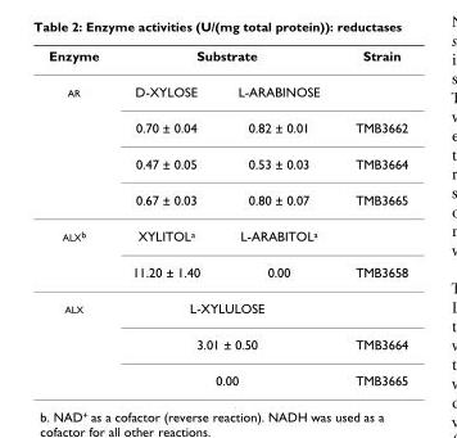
<table><thead><tr><td rowspan="2">Enzyme AR</td><td colspan="2">Substrate</td><td rowspan="2">Strain</td></tr><tr><td>D-XYLOSE</td><td>L-ARABINOSE</td></tr></thead><tbody><tr><td></td><td>0.70 ± 0.04</td><td>0.82 ± 0.01</td><td>TMB3662</td></tr><tr><td></td><td>0.47 ± 0.05</td><td>0.53 ± 0.03</td><td>TMB3664</td></tr><tr><td></td><td>0.67 ± 0.03</td><td>0.80 ± 0.07</td><td>TMB3665</td></tr><tr><td rowspan="2">ALX<sup>b</sup></td><td>XYLITOL<sup>a</sup></td><td>L-ARABITOL<sup>a</sup></td><td></td></tr><tr><td>11.20 ± 1.40</td><td>0.00</td><td>TMB3658</td></tr><tr><td rowspan="3">ALX</td><td colspan="2">L-XYLULOSE</td><td></td></tr><tr><td colspan="2">3.01 ± 0.50</td><td>TMB3664</td></tr><tr><td colspan="2">0.00</td><td>TMB3665</td></tr></tbody></table>